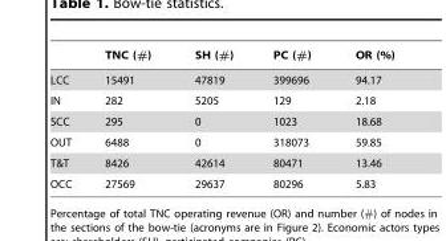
<table><thead><tr><td></td><td>TNC (#)</td><td>SH (#)</td><td>PC (#)</td><td>OR (%)</td></tr></thead><tbody><tr><td>LCC</td><td>15491</td><td>47819</td><td>399696</td><td>94.17</td></tr><tr><td>IN</td><td>282</td><td>5205</td><td>129</td><td>2.18</td></tr><tr><td>SCC</td><td>295</td><td>0</td><td>1023</td><td>18.68</td></tr><tr><td>OUT</td><td>6488</td><td>0</td><td>318073</td><td>59.85</td></tr><tr><td>T&amp;T</td><td>8426</td><td>42614</td><td>80471</td><td>13.46</td></tr><tr><td>OCC</td><td>27569</td><td>29637</td><td>80296</td><td>5.83</td></tr></tbody></table>